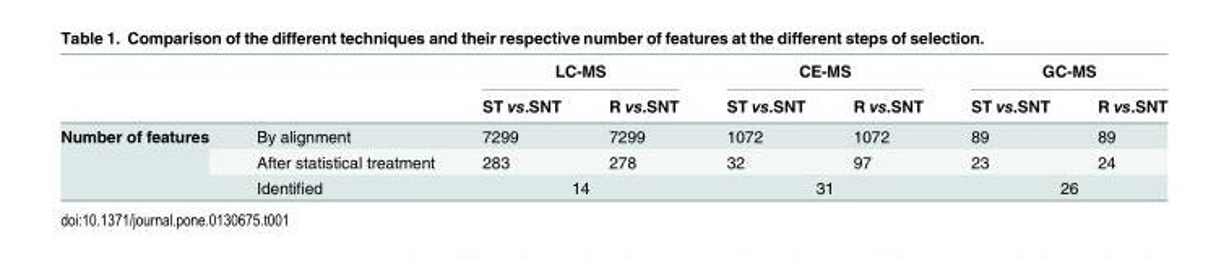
<table><thead><tr><td rowspan="2"></td><td rowspan="2"></td><td colspan="2">LC-MS</td><td colspan="2">CE-MS</td><td colspan="2">GC-MS</td></tr><tr><td>ST vs.SNT</td><td>R vs.SNT</td><td>ST vs.SNT</td><td>R vs.SNT</td><td>ST vs.SNT</td><td>R vs.SNT</td></tr></thead><tbody><tr><td rowspan="3">Number of features</td><td>By alignment</td><td>7299</td><td>7299</td><td>1072</td><td>1072</td><td>89</td><td>89</td></tr><tr><td>After statistical treatment</td><td>283</td><td>278</td><td>32</td><td>97</td><td>23</td><td>24</td></tr><tr><td>Identified</td><td colspan="2">14</td><td colspan="2">31</td><td colspan="2">26</td></tr></tbody></table>